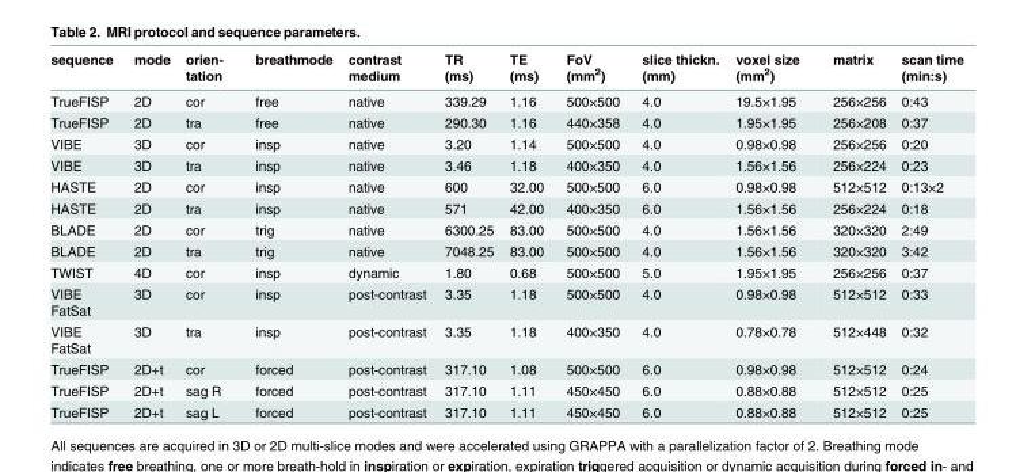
<table><thead><tr><td>sequence</td><td>mode</td><td>orien- tation</td><td>breathmode</td><td>contrast medium</td><td>TR (ms)</td><td>TE (ms)</td><td>FoV (mm<sup>2</sup>)</td><td>slice thickn. (mm)</td><td>voxel size (mm<sup>2</sup>)</td><td>matrix</td><td>scan time (min:s)</td></tr></thead><tbody><tr><td>TrueFISP</td><td>2D</td><td>cor</td><td>free</td><td>native</td><td>339.29</td><td>1.16</td><td>500×500</td><td>4.0</td><td>19.5×1.95</td><td>256×256</td><td>0:43</td></tr><tr><td>TrueFISP</td><td>2D</td><td>tra</td><td>free</td><td>native</td><td>290.30</td><td>1.16</td><td>440×358</td><td>4.0</td><td>1.95×1.95</td><td>256×208</td><td>0:37</td></tr><tr><td>VIBE</td><td>3D</td><td>cor</td><td>insp</td><td>native</td><td>3.20</td><td>1.14</td><td>500×500</td><td>4.0</td><td>0.98×0.98</td><td>256×256</td><td>0:20</td></tr><tr><td>VIBE</td><td>3D</td><td>tra</td><td>insp</td><td>native</td><td>3.46</td><td>1.18</td><td>400×350</td><td>4.0</td><td>1.56×1.56</td><td>256×224</td><td>0:23</td></tr><tr><td>HASTE</td><td>2D</td><td>cor</td><td>insp</td><td>native</td><td>600</td><td>32.00</td><td>500×500</td><td>6.0</td><td>0.98×0.98</td><td>512×512</td><td>0:13×2</td></tr><tr><td>HASTE</td><td>2D</td><td>tra</td><td>insp</td><td>native</td><td>571</td><td>42.00</td><td>400×350</td><td>6.0</td><td>1.56×1.56</td><td>256×224</td><td>0:18</td></tr><tr><td>BLADE</td><td>2D</td><td>cor</td><td>trig</td><td>native</td><td>6300.25</td><td>83.00</td><td>500×500</td><td>4.0</td><td>1.56×1.56</td><td>320×320</td><td>2:49</td></tr><tr><td>BLADE</td><td>2D</td><td>tra</td><td>trig</td><td>native</td><td>7048.25</td><td>83.00</td><td>500×500</td><td>4.0</td><td>1.56×1.56</td><td>320×320</td><td>3:42</td></tr><tr><td>TWIST</td><td>4D</td><td>cor</td><td>insp</td><td>dynamic</td><td>1.80</td><td>0.68</td><td>500×500</td><td>5.0</td><td>1.95×1.95</td><td>256×256</td><td>0:37</td></tr><tr><td>VIBE FatSat</td><td>3D</td><td>cor</td><td>insp</td><td>post-contrast</td><td>3.35</td><td>1.18</td><td>500×500</td><td>4.0</td><td>0.98×0.98</td><td>512×512</td><td>0:33</td></tr><tr><td>VIBE FatSat</td><td>3D</td><td>tra</td><td>insp</td><td>post-contrast</td><td>3.35</td><td>1.18</td><td>400×350</td><td>4.0</td><td>0.78×0.78</td><td>512×448</td><td>0:32</td></tr><tr><td>TrueFISP</td><td>2D+t</td><td>cor</td><td>forced</td><td>post-contrast</td><td>317.10</td><td>1.08</td><td>500×500</td><td>6.0</td><td>0.98×0.98</td><td>512×512</td><td>0:24</td></tr><tr><td>TrueFISP</td><td>2D+t</td><td>sag R</td><td>forced</td><td>post-contrast</td><td>317.10</td><td>1.11</td><td>450×450</td><td>6.0</td><td>0.88×0.88</td><td>512×512</td><td>0:25</td></tr><tr><td>TrueFISP</td><td>2D+t</td><td>sag L</td><td>forced</td><td>post-contrast</td><td>317.10</td><td>1.11</td><td>450×450</td><td>6.0</td><td>0.88×0.88</td><td>512×512</td><td>0:25</td></tr></tbody></table>